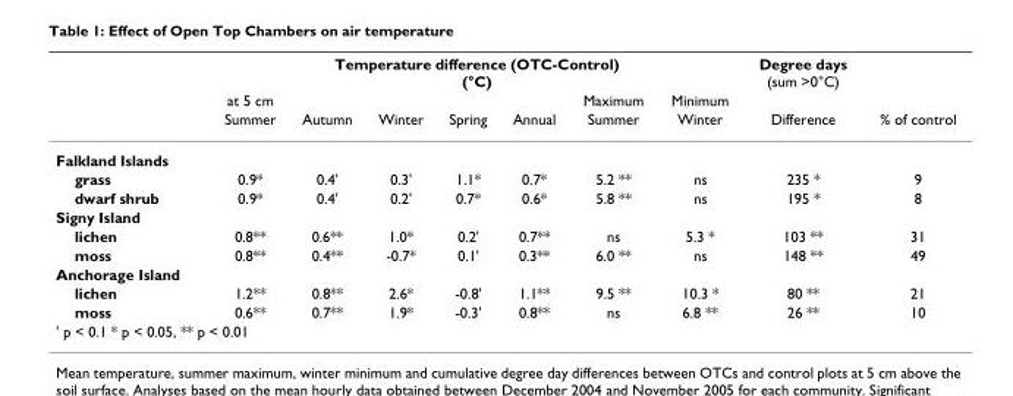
<table><thead><tr><td rowspan="3"></td><td colspan="7">Temperature difference (OTC-Control) (°C)</td><td rowspan="3">Degree days (sum &gt;0°C) Difference</td><td rowspan="3">% of control</td></tr><tr><td rowspan="2">at 5 cm Summer</td><td rowspan="2">Autumn</td><td rowspan="2">Winter</td><td rowspan="2">Spring</td><td rowspan="2">Annual</td><td rowspan="2">Maximum Summer</td><td rowspan="2">Minimum Winter</td></tr><tr></tr></thead><tbody><tr><td colspan="10">Falkland Islands</td></tr><tr><td>grass</td><td>0.9*</td><td>0.4&#x27;</td><td>0.3&#x27;</td><td>1.1*</td><td>0.7*</td><td>5.2 **</td><td>ns</td><td>235 *</td><td>9</td></tr><tr><td>dwarf shrub</td><td>0.9*</td><td>0.4&#x27;</td><td>0.2&#x27;</td><td>0.7*</td><td>0.6*</td><td>5.8 **</td><td>ns</td><td>195 *</td><td>8</td></tr><tr><td colspan="10">Signy Island</td></tr><tr><td>lichen</td><td>0.8**</td><td>0.6**</td><td>1.0*</td><td>0.2&#x27;</td><td>0.7**</td><td>ns</td><td>5.3 *</td><td>103 **</td><td>31</td></tr><tr><td>moss</td><td>0.8**</td><td>0.4**</td><td>-0.7*</td><td>0.1&#x27;</td><td>0.3**</td><td>6.0 **</td><td>ns</td><td>148 **</td><td>49</td></tr><tr><td colspan="10">Anchorage Island</td></tr><tr><td>lichen</td><td>1.2**</td><td>0.8**</td><td>2.6*</td><td>-0.8&#x27;</td><td>1.1**</td><td>9.5 **</td><td>10.3 *</td><td>80 **</td><td>21</td></tr><tr><td>moss</td><td>0.6**</td><td>0.7**</td><td>1.9*</td><td>-0.3&#x27;</td><td>0.8**</td><td>ns</td><td>6.8 **</td><td>26 **</td><td>10</td></tr><tr><td colspan="10">&#x27; p &lt; 0.1 * p &lt; 0.05, ** p &lt; 0.01</td></tr></tbody></table>